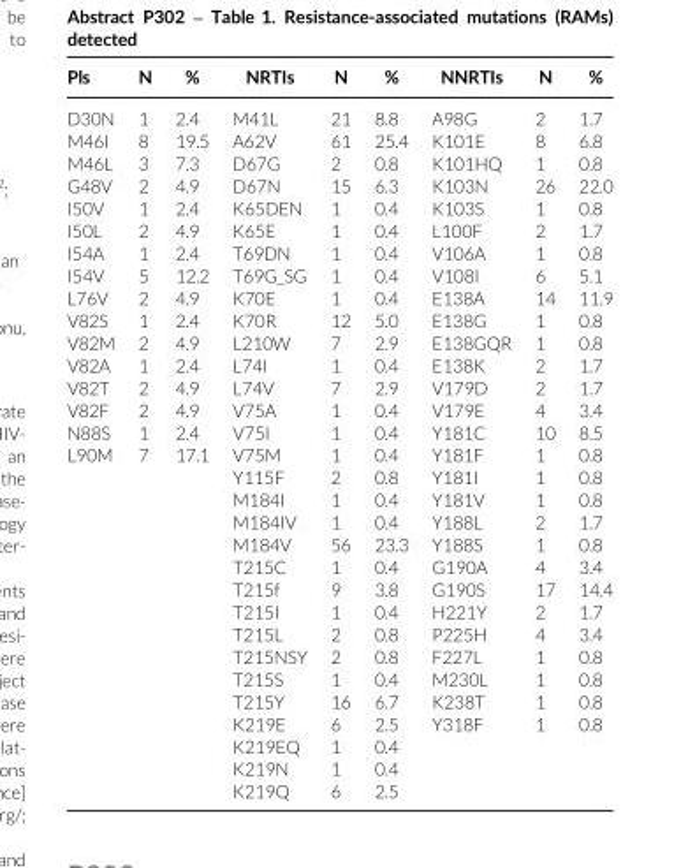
<table><thead><tr><td>Pls</td><td>N</td><td>%</td><td>NRTIs</td><td>N</td><td>%</td><td>NNRTIs</td><td>N</td><td>%</td></tr></thead><tbody><tr><td>D30N</td><td>1</td><td>2.4</td><td>M41L</td><td>21</td><td>8.8</td><td>A98G</td><td>2</td><td>1.7</td></tr><tr><td>M46I</td><td>8</td><td>19.5</td><td>A62V</td><td>61</td><td>25.4</td><td>K101E</td><td>8</td><td>6.8</td></tr><tr><td>M46L</td><td>3</td><td>7.3</td><td>D67G</td><td>2</td><td>0.8</td><td>K101HQ</td><td>1</td><td>0.8</td></tr><tr><td>G48V</td><td>2</td><td>4.9</td><td>D67N</td><td>15</td><td>6.3</td><td>K103N</td><td>26</td><td>22.0</td></tr><tr><td>I50V</td><td>1</td><td>2.4</td><td>K65DEN</td><td>1</td><td>0.4</td><td>K103S</td><td>1</td><td>0.8</td></tr><tr><td>I50L</td><td>2</td><td>4.9</td><td>K65E</td><td>1</td><td>0.4</td><td>L100F</td><td>2</td><td>1.7</td></tr><tr><td>I54A</td><td>1</td><td>2.4</td><td>T69DN</td><td>1</td><td>0.4</td><td>V106A</td><td>1</td><td>0.8</td></tr><tr><td>I54V</td><td>5</td><td>12.2</td><td>T69G_SG</td><td>1</td><td>0.4</td><td>V108I</td><td>6</td><td>5.1</td></tr><tr><td>L76V</td><td>2</td><td>4.9</td><td>K70E</td><td>1</td><td>0.4</td><td>E138A</td><td>14</td><td>11.9</td></tr><tr><td>V82S</td><td>1</td><td>2.4</td><td>K70R</td><td>12</td><td>5.0</td><td>E138G</td><td>1</td><td>0.8</td></tr><tr><td>V82M</td><td>2</td><td>4.9</td><td>L210W</td><td>7</td><td>2.9</td><td>E138GQR</td><td>1</td><td>0.8</td></tr><tr><td>V82A</td><td>1</td><td>2.4</td><td>L74I</td><td>1</td><td>0.4</td><td>E138K</td><td>2</td><td>1.7</td></tr><tr><td>V82T</td><td>2</td><td>4.9</td><td>L74V</td><td>7</td><td>2.9</td><td>V179D</td><td>2</td><td>1.7</td></tr><tr><td>V82F</td><td>2</td><td>4.9</td><td>V75A</td><td>1</td><td>0.4</td><td>V179E</td><td>4</td><td>3.4</td></tr><tr><td>N88S</td><td>1</td><td>2.4</td><td>V75I</td><td>1</td><td>0.4</td><td>Y181C</td><td>10</td><td>8.5</td></tr><tr><td rowspan="16">L90M</td><td>7</td><td>17.1</td><td>V75M</td><td>1</td><td>0.4</td><td>Y181F</td><td>1</td><td>0.8</td></tr><tr><td></td><td></td><td>Y115F</td><td>2</td><td>0.8</td><td>Y181I</td><td>1</td><td>0.8</td></tr><tr><td></td><td></td><td>M184I</td><td>1</td><td>0.4</td><td>Y181V</td><td>1</td><td>0.8</td></tr><tr><td></td><td></td><td>M184IV</td><td>1</td><td>0.4</td><td>Y188L</td><td>2</td><td>1.7</td></tr><tr><td></td><td></td><td>M184V</td><td>56</td><td>23.3</td><td>Y188S</td><td>1</td><td>0.8</td></tr><tr><td></td><td></td><td>T215C</td><td>1</td><td>0.4</td><td>G190A</td><td>4</td><td>3.4</td></tr><tr><td></td><td></td><td>T215f</td><td>9</td><td>3.8</td><td>G190S</td><td>17</td><td>14.4</td></tr><tr><td></td><td></td><td>T215I</td><td>1</td><td>0.4</td><td>H221Y</td><td>2</td><td>1.7</td></tr><tr><td></td><td></td><td>T215L</td><td>2</td><td>0.8</td><td>P225H</td><td>4</td><td>3.4</td></tr><tr><td></td><td></td><td>T215NSY</td><td>2</td><td>0.8</td><td>F227L</td><td>1</td><td>0.8</td></tr><tr><td></td><td></td><td>T215S</td><td>1</td><td>0.4</td><td>M230L</td><td>1</td><td>0.8</td></tr><tr><td></td><td></td><td>T215Y</td><td>16</td><td>6.7</td><td>K238T</td><td>1</td><td>0.8</td></tr><tr><td></td><td></td><td>K219E</td><td>6</td><td>2.5</td><td>Y318F</td><td>1</td><td>0.8</td></tr><tr><td></td><td></td><td>K219EQ</td><td>1</td><td>0.4</td><td></td><td></td><td></td></tr><tr><td></td><td></td><td>K219N</td><td>1</td><td>0.4</td><td></td><td></td><td></td></tr><tr><td></td><td></td><td>K219Q</td><td>6</td><td>2.5</td><td></td><td></td><td></td></tr></tbody></table>